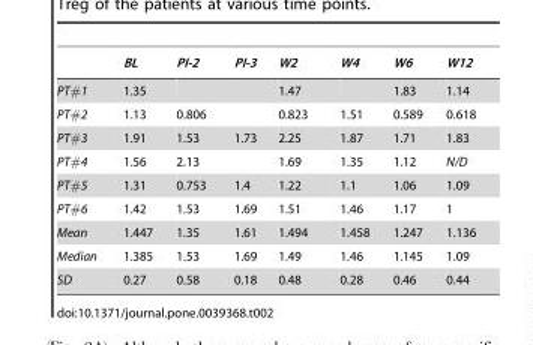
<table><thead><tr><td></td><td>BL</td><td>PI-2</td><td>PI-3</td><td>W2</td><td>W4</td><td>W6</td><td>W12</td></tr></thead><tbody><tr><td>PT#1</td><td>1.35</td><td></td><td></td><td>1.47</td><td></td><td>1.83</td><td>1.14</td></tr><tr><td>PT#2</td><td>1.13</td><td>0.806</td><td></td><td>0.823</td><td>1.51</td><td>0.589</td><td>0.618</td></tr><tr><td>PT#3</td><td>1.91</td><td>1.53</td><td>1.73</td><td>2.25</td><td>1.87</td><td>1.71</td><td>1.83</td></tr><tr><td>PT#4</td><td>1.56</td><td>2.13</td><td></td><td>1.69</td><td>1.35</td><td>1.12</td><td>N/D</td></tr><tr><td>PT#5</td><td>1.31</td><td>0.753</td><td>1.4</td><td>1.22</td><td>1.1</td><td>1.06</td><td>1.09</td></tr><tr><td>PT#6</td><td>1.42</td><td>1.53</td><td>1.69</td><td>1.51</td><td>1.46</td><td>1.17</td><td>1</td></tr><tr><td>Mean</td><td>1.447</td><td>1.35</td><td>1.61</td><td>1.494</td><td>1.458</td><td>1.247</td><td>1.136</td></tr><tr><td>Median</td><td>1.385</td><td>1.53</td><td>1.69</td><td>1.49</td><td>1.46</td><td>1.145</td><td>1.09</td></tr><tr><td>SD</td><td>0.27</td><td>0.58</td><td>0.18</td><td>0.48</td><td>0.28</td><td>0.46</td><td>0.44</td></tr></tbody></table>